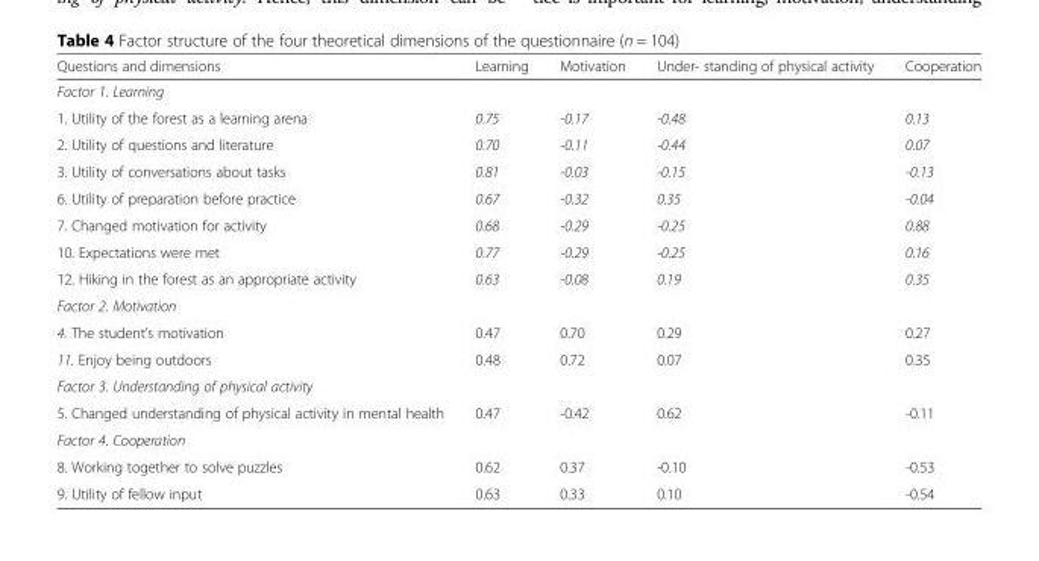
<table><thead><tr><td>Questions and dimensions</td><td>Learning</td><td>Motivation</td><td>Under- standing of physical activity</td><td>Cooperation</td></tr></thead><tbody><tr><td colspan="5">Factor 1. Learning</td></tr><tr><td>1. Utility of the forest as a learning arena</td><td>0.75</td><td>-0.17</td><td>-0.48</td><td>0.13</td></tr><tr><td>2. Utility of questions and literature</td><td>0.70</td><td>-0.11</td><td>-0.44</td><td>0.07</td></tr><tr><td>3. Utility of conversations about tasks</td><td>0.81</td><td>-0.03</td><td>-0.15</td><td>-0.13</td></tr><tr><td>6. Utility of preparation before practice</td><td>0.67</td><td>-0.32</td><td>0.35</td><td>-0.04</td></tr><tr><td>7. Changed motivation for activity</td><td>0.68</td><td>-0.29</td><td>-0.25</td><td>0.88</td></tr><tr><td>10. Expectations were met</td><td>0.77</td><td>-0.29</td><td>-0.25</td><td>0.16</td></tr><tr><td>12. Hiking in the forest as an appropriate activity</td><td>0.63</td><td>-0.08</td><td>0.19</td><td>0.35</td></tr><tr><td colspan="5">Factor 2. Motivation</td></tr><tr><td>4. The student’s motivation</td><td>0.47</td><td>0.70</td><td>0.29</td><td>0.27</td></tr><tr><td>11. Enjoy being outdoors</td><td>0.48</td><td>0.72</td><td>0.07</td><td>0.35</td></tr><tr><td colspan="5">Factor 3. Understanding of physical activity</td></tr><tr><td>5. Changed understanding of physical activity in mental health</td><td>0.47</td><td>-0.42</td><td>0.62</td><td>-0.11</td></tr><tr><td colspan="5">Factor 4. Cooperation</td></tr><tr><td>8. Working together to solve puzzles</td><td>0.62</td><td>0.37</td><td>-0.10</td><td>-0.53</td></tr><tr><td>9. Utility of fellow input</td><td>0.63</td><td>0.33</td><td>0.10</td><td>-0.54</td></tr></tbody></table>